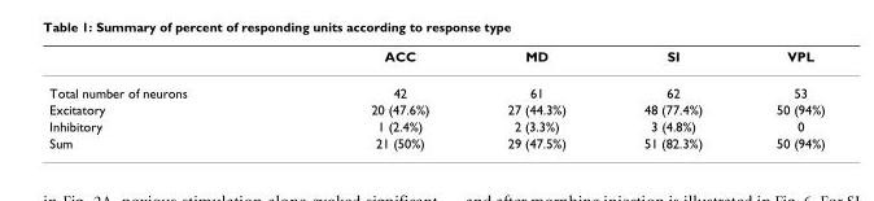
<table><thead><tr><td></td><td>ACC</td><td>MD</td><td>SI</td><td>VPL</td></tr></thead><tbody><tr><td>Total number of neurons</td><td>42</td><td>61</td><td>62</td><td>53</td></tr><tr><td>Excitatory</td><td>20 (47.6%)</td><td>27 (44.3%)</td><td>48 (77.4%)</td><td>50 (94%)</td></tr><tr><td>Inhibitory</td><td>1 (2.4%)</td><td>2 (3.3%)</td><td>3 (4.8%)</td><td>0</td></tr><tr><td>Sum</td><td>21 (50%)</td><td>29 (47.5%)</td><td>51 (82.3%)</td><td>50 (94%)</td></tr></tbody></table>